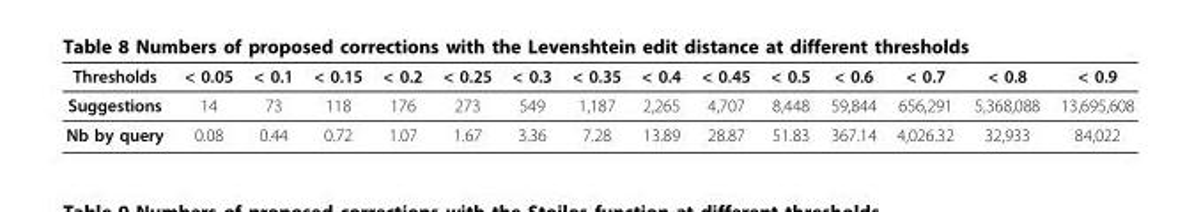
<table><thead><tr><td>Thresholds</td><td>&lt; 0.05</td><td>&lt; 0.1</td><td>&lt; 0.15</td><td>&lt; 0.2</td><td>&lt; 0.25</td><td>&lt; 0.3</td><td>&lt; 0.35</td><td>&lt; 0.4</td><td>&lt; 0.45</td><td>&lt; 0.5</td><td>&lt; 0.6</td><td>&lt; 0.7</td><td>&lt; 0.8</td><td>&lt; 0.9</td></tr></thead><tbody><tr><td>Suggestions</td><td>14</td><td>73</td><td>118</td><td>176</td><td>273</td><td>549</td><td>1,187</td><td>2,265</td><td>4,707</td><td>8,448</td><td>59,844</td><td>656,291</td><td>5,368,088</td><td>13,695,608</td></tr><tr><td>Nb by query</td><td>0.08</td><td>0.44</td><td>0.72</td><td>1.07</td><td>1.67</td><td>3.36</td><td>7.28</td><td>13.89</td><td>28.87</td><td>51.83</td><td>367.14</td><td>4,026.32</td><td>32,933</td><td>84,022</td></tr></tbody></table>